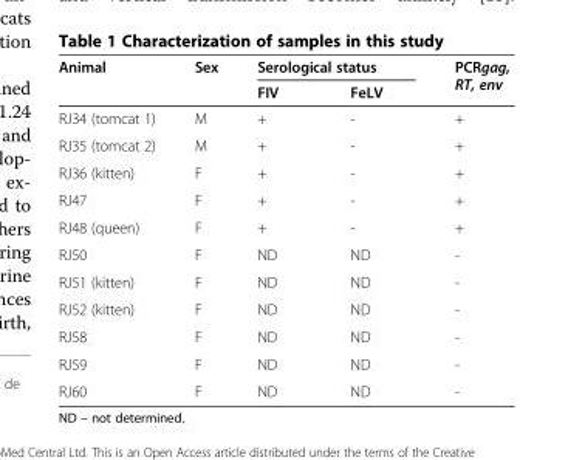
<table><thead><tr><td rowspan="2">Animal</td><td rowspan="2">Sex</td><td colspan="2">Serological status</td><td rowspan="2">PCRgag, RT, env</td></tr><tr><td>FIV</td><td>FeLV</td></tr></thead><tbody><tr><td>RJ34 (tomcat 1)</td><td>M</td><td>+</td><td>-</td><td>+</td></tr><tr><td>RJ35 (tomcat 2)</td><td>M</td><td>+</td><td>-</td><td>+</td></tr><tr><td>RJ36 (kitten)</td><td>F</td><td>+</td><td>-</td><td>+</td></tr><tr><td>RJ47</td><td>F</td><td>+</td><td>-</td><td>+</td></tr><tr><td>RJ48 (queen)</td><td>F</td><td>+</td><td>-</td><td>+</td></tr><tr><td>RJ50</td><td>F</td><td>ND</td><td>ND</td><td>-</td></tr><tr><td>RJ51 (kitten)</td><td>F</td><td>ND</td><td>ND</td><td>-</td></tr><tr><td>RJ52 (kitten)</td><td>F</td><td>ND</td><td>ND</td><td>-</td></tr><tr><td>RJ58</td><td>F</td><td>ND</td><td>ND</td><td>-</td></tr><tr><td>RJ59</td><td>F</td><td>ND</td><td>ND</td><td>-</td></tr><tr><td>RJ60</td><td>F</td><td>ND</td><td>ND</td><td>-</td></tr></tbody></table>